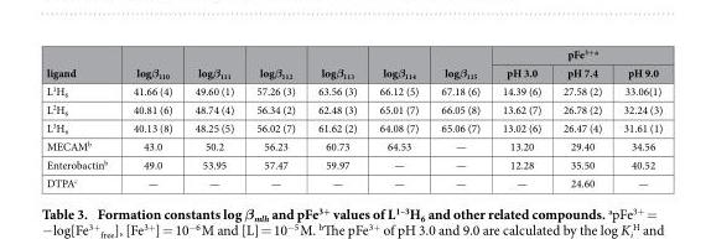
<table><thead><tr><td rowspan="2">ligand</td><td rowspan="2">logβ<sub>110</sub></td><td rowspan="2">logβ<sub>111</sub></td><td rowspan="2">logβ<sub>112</sub></td><td rowspan="2">logβ<sub>113</sub></td><td rowspan="2">logβ<sub>114</sub></td><td rowspan="2">logβ<sub>115</sub></td><td colspan="3">pFe<sup>3+</sup> a</td></tr><tr><td>pH 3.0</td><td>pH 7.4</td><td>pH 9.0</td></tr></thead><tbody><tr><td>L<sup>1</sup>H<sub>6</sub></td><td>41.66 (4)</td><td>49.60 (1)</td><td>57.26 (3)</td><td>63.56 (3)</td><td>66.12 (5)</td><td>67.18 (6)</td><td>14.39 (6)</td><td>27.58 (2)</td><td>33.06(1)</td></tr><tr><td>L<sup>2</sup>H<sub>6</sub></td><td>40.81 (6)</td><td>48.74 (4)</td><td>56.34 (2)</td><td>62.48 (3)</td><td>65.01 (7)</td><td>66.05 (8)</td><td>13.62 (7)</td><td>26.78 (2)</td><td>32.24 (3)</td></tr><tr><td>L<sup>3</sup>H<sub>6</sub></td><td>40.13 (8)</td><td>48.25 (5)</td><td>56.02 (7)</td><td>61.62 (2)</td><td>64.08 (7)</td><td>65.06 (7)</td><td>13.02 (6)</td><td>26.47 (4)</td><td>31.61 (1)</td></tr><tr><td>MECAM<sup>b</sup></td><td>43.0</td><td>50.2</td><td>56.23</td><td>60.73</td><td>64.53</td><td>—</td><td>13.20</td><td>29.40</td><td>34.56</td></tr><tr><td>Enterobactin<sup>b</sup></td><td>49.0</td><td>53.95</td><td>57.47</td><td>59.97</td><td>—</td><td>—</td><td>12.28</td><td>35.50</td><td>40.52</td></tr><tr><td>DTPA<sup>c</sup></td><td>—</td><td>—</td><td>—</td><td>—</td><td>—</td><td>—</td><td>—</td><td>24.60</td><td>—</td></tr></tbody></table>